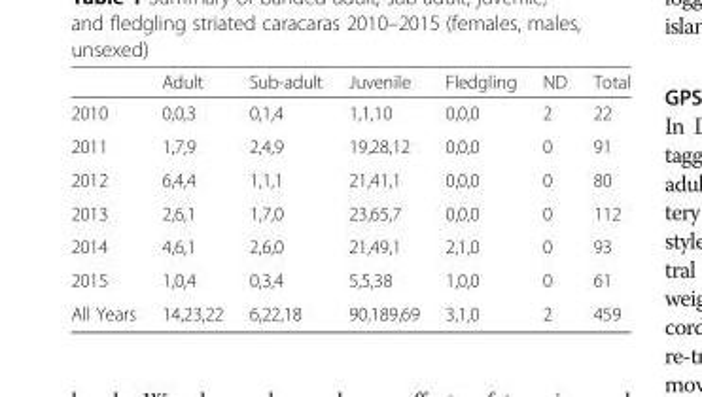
<table><thead><tr><td></td><td>Adult</td><td>Sub-adult</td><td>Juvenile</td><td>Fledgling</td><td>ND</td><td>Total</td></tr></thead><tbody><tr><td>2010</td><td>0,0,3</td><td>0,1,4</td><td>1,1,10</td><td>0,0,0</td><td>2</td><td>22</td></tr><tr><td>2011</td><td>1,7,9</td><td>2,4,9</td><td>19,28,12</td><td>0,0,0</td><td>0</td><td>91</td></tr><tr><td>2012</td><td>6,4,4</td><td>1,1,1</td><td>21,41,1</td><td>0,0,0</td><td>0</td><td>80</td></tr><tr><td>2013</td><td>2,6,1</td><td>1,7,0</td><td>23,65,7</td><td>0,0,0</td><td>0</td><td>112</td></tr><tr><td>2014</td><td>4,6,1</td><td>2,6,0</td><td>21,49,1</td><td>2,1,0</td><td>0</td><td>93</td></tr><tr><td>2015</td><td>1,0,4</td><td>0,3,4</td><td>5,5,38</td><td>1,0,0</td><td>0</td><td>61</td></tr><tr><td>All Years</td><td>14,23,22</td><td>6,22,18</td><td>90,189,69</td><td>3,1,0</td><td>2</td><td>459</td></tr></tbody></table>